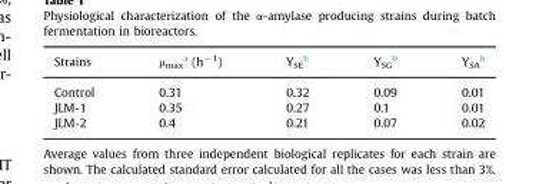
<table><thead><tr><td>Strains</td><td>µ<sub>max</sub> <sup>a</sup> (h<sup>−1</sup>)</td><td>Y<sub>SE</sub> <sup>b</sup></td><td>Y<sub>SG</sub> <sup>b</sup></td><td>Y<sub>SA</sub> <sup>b</sup></td></tr></thead><tbody><tr><td>Control</td><td>0.31</td><td>0.32</td><td>0.09</td><td>0.01</td></tr><tr><td>JLM-1</td><td>0.35</td><td>0.27</td><td>0.1</td><td>0.01</td></tr><tr><td>JLM-2</td><td>0.4</td><td>0.21</td><td>0.07</td><td>0.02</td></tr></tbody></table>